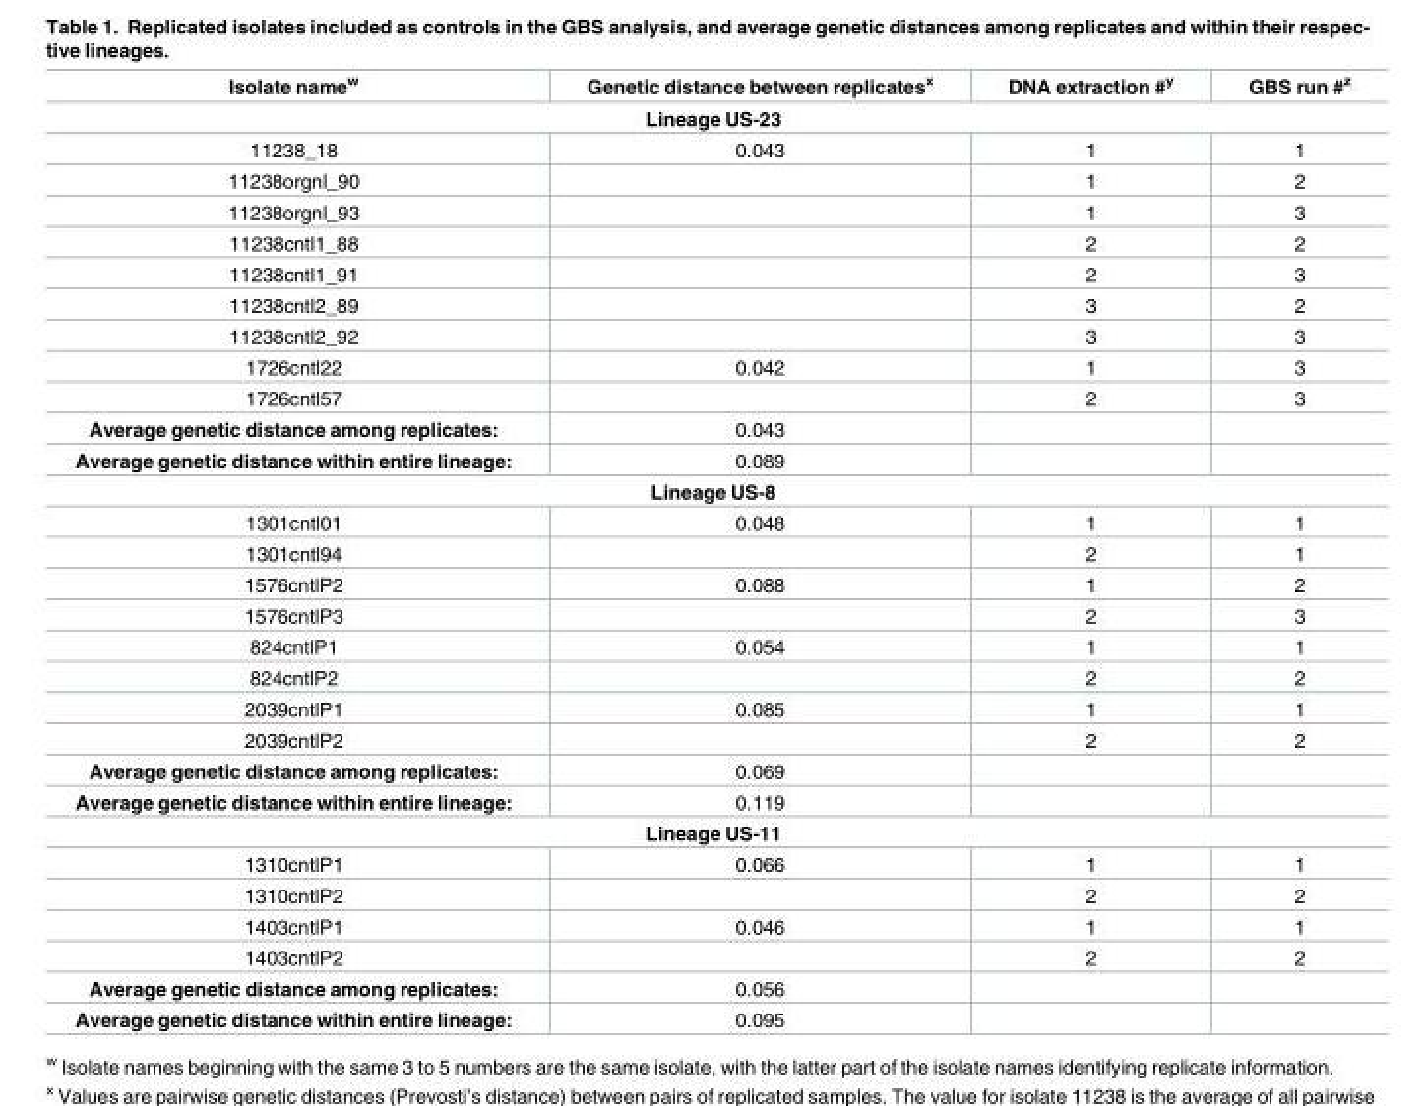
<table><thead><tr><td>Isolate name<sup>w</sup></td><td>Genetic distance between replicates<sup>x</sup></td><td>DNA extraction #<sup>y</sup></td><td>GBS run #<sup>z</sup></td></tr></thead><tbody><tr><td colspan="4">Lineage US-23</td></tr><tr><td>11238_18</td><td>0.043</td><td>1</td><td>1</td></tr><tr><td>11238orgnl_90</td><td></td><td>1</td><td>2</td></tr><tr><td>11238orgnl_93</td><td></td><td>1</td><td>3</td></tr><tr><td>11238cntl1_88</td><td></td><td>2</td><td>2</td></tr><tr><td>11238cntl1_91</td><td></td><td>2</td><td>3</td></tr><tr><td>11238cntl2_89</td><td></td><td>3</td><td>2</td></tr><tr><td>11238cntl2_92</td><td></td><td>3</td><td>3</td></tr><tr><td>1726cntl22</td><td>0.042</td><td>1</td><td>3</td></tr><tr><td>1726cntl57</td><td></td><td>2</td><td>3</td></tr><tr><td>Average genetic distance among replicates:</td><td>0.043</td><td></td><td></td></tr><tr><td>Average genetic distance within entire lineage:</td><td>0.089</td><td></td><td></td></tr><tr><td colspan="4">Lineage US-8</td></tr><tr><td>1301cntl01</td><td>0.048</td><td>1</td><td>1</td></tr><tr><td>1301cntl94</td><td></td><td>2</td><td>1</td></tr><tr><td>1576cntlP2</td><td>0.088</td><td>1</td><td>2</td></tr><tr><td>1576cntlP3</td><td></td><td>2</td><td>3</td></tr><tr><td>824cntlP1</td><td>0.054</td><td>1</td><td>1</td></tr><tr><td>824cntlP2</td><td></td><td>2</td><td>2</td></tr><tr><td>2039cntlP1</td><td>0.085</td><td>1</td><td>1</td></tr><tr><td>2039cntlP2</td><td></td><td>2</td><td>2</td></tr><tr><td>Average genetic distance among replicates:</td><td>0.069</td><td></td><td></td></tr><tr><td>Average genetic distance within entire lineage:</td><td>0.119</td><td></td><td></td></tr><tr><td colspan="4">Lineage US-11</td></tr><tr><td>1310cntlP1</td><td>0.066</td><td>1</td><td>1</td></tr><tr><td>1310cntlP2</td><td></td><td>2</td><td>2</td></tr><tr><td>1403cntlP1</td><td>0.046</td><td>1</td><td>1</td></tr><tr><td>1403cntlP2</td><td></td><td>2</td><td>2</td></tr><tr><td>Average genetic distance among replicates:</td><td>0.056</td><td></td><td></td></tr><tr><td>Average genetic distance within entire lineage:</td><td>0.095</td><td></td><td></td></tr></tbody></table>